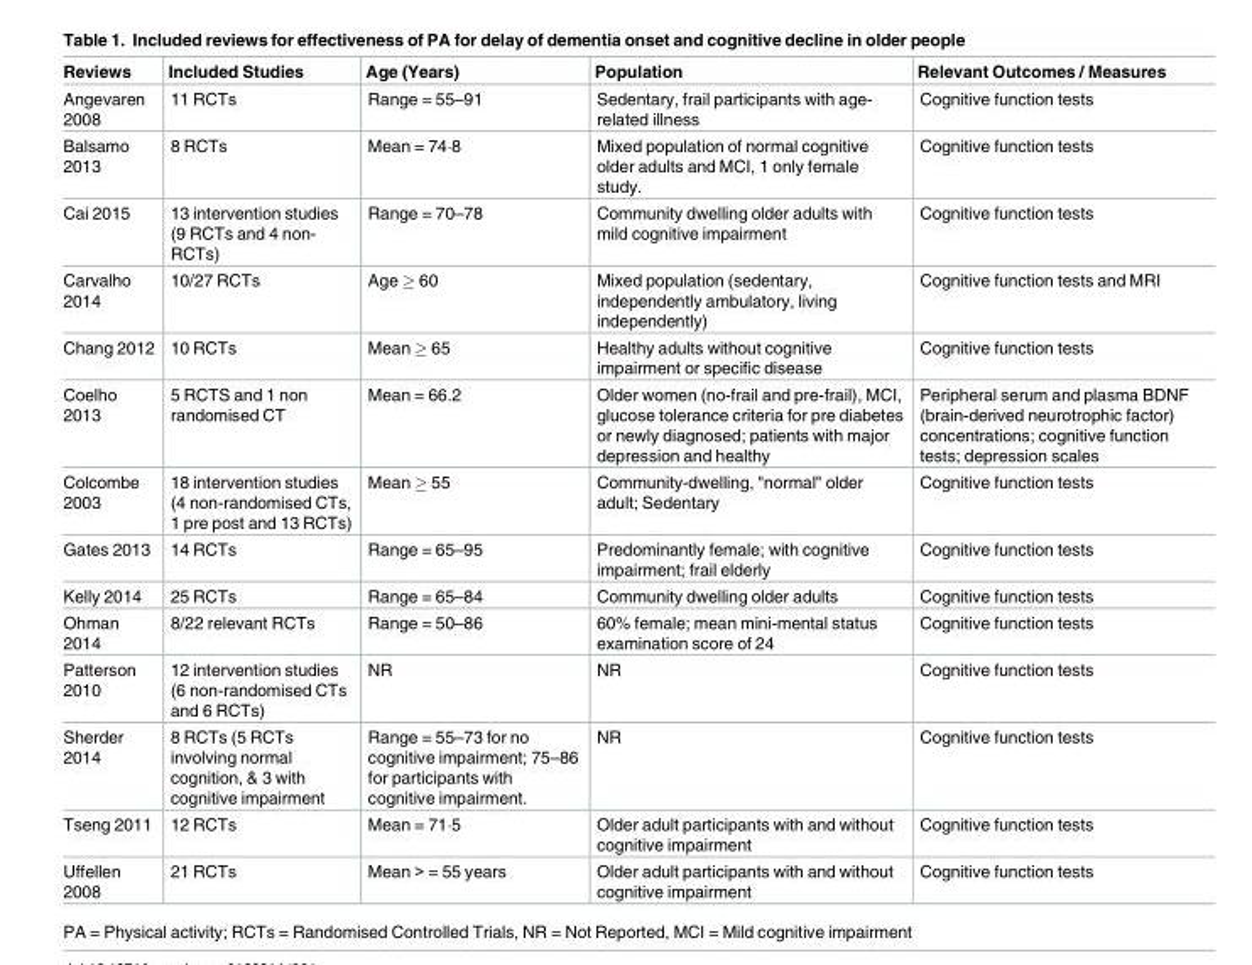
<table><thead><tr><td>Reviews</td><td>Included Studies</td><td>Age (Years)</td><td>Population</td><td>Relevant Outcomes / Measures</td></tr></thead><tbody><tr><td>Angevaren 2008</td><td>11 RCTs</td><td>Range = 55–91</td><td>Sedentary, frail participants with age- related illness</td><td>Cognitive function tests</td></tr><tr><td>Balsamo 2013</td><td>8 RCTs</td><td>Mean = 74·8</td><td>Mixed population of normal cognitive older adults and MCI, 1 only female study.</td><td>Cognitive function tests</td></tr><tr><td>Cai 2015</td><td>13 intervention studies (9 RCTs and 4 non- RCTs)</td><td>Range = 70–78</td><td>Community dwelling older adults with mild cognitive impairment</td><td>Cognitive function tests</td></tr><tr><td>Carvalho 2014</td><td>10/27 RCTs</td><td>Age ≥ 60</td><td>Mixed population (sedentary, independently ambulatory, living independently)</td><td>Cognitive function tests and MRI</td></tr><tr><td>Chang 2012</td><td>10 RCTs</td><td>Mean ≥ 65</td><td>Healthy adults without cognitive impairment or specific disease</td><td>Cognitive function tests</td></tr><tr><td>Coelho 2013</td><td>5 RCTS and 1 non randomised CT</td><td>Mean = 66.2</td><td>Older women (no-frail and pre-frail), MCI, glucose tolerance criteria for pre diabetes or newly diagnosed; patients with major depression and healthy</td><td>Peripheral serum and plasma BDNF (brain-derived neurotrophic factor) concentrations; cognitive function tests; depression scales</td></tr><tr><td>Colcombe 2003</td><td>18 intervention studies (4 non-randomised CTs, 1 pre post and 13 RCTs)</td><td>Mean ≥ 55</td><td>Community-dwelling, &quot;normal&quot; older adult; Sedentary</td><td>Cognitive function tests</td></tr><tr><td>Gates 2013</td><td>14 RCTs</td><td>Range = 65–95</td><td>Predominantly female; with cognitive impairment; frail elderly</td><td>Cognitive function tests</td></tr><tr><td>Kelly 2014</td><td>25 RCTs</td><td>Range = 65–84</td><td>Community dwelling older adults</td><td>Cognitive function tests</td></tr><tr><td>Ohman 2014</td><td>8/22 relevant RCTs</td><td>Range = 50–86</td><td>60% female; mean mini-mental status examination score of 24</td><td>Cognitive function tests</td></tr><tr><td>Patterson 2010</td><td>12 intervention studies (6 non-randomised CTs and 6 RCTs)</td><td>NR</td><td>NR</td><td>Cognitive function tests</td></tr><tr><td>Sherder 2014</td><td>8 RCTs (5 RCTs involving normal cognition, &amp; 3 with cognitive impairment</td><td>Range = 55–73 for no cognitive impairment; 75–86 for participants with cognitive impairment.</td><td>NR</td><td>Cognitive function tests</td></tr><tr><td>Tseng 2011</td><td>12 RCTs</td><td>Mean = 71·5</td><td>Older adult participants with and without cognitive impairment</td><td>Cognitive function tests</td></tr><tr><td>Uffellen 2008</td><td>21 RCTs</td><td>Mean &gt; = 55 years</td><td>Older adult participants with and without cognitive impairment</td><td>Cognitive function tests</td></tr></tbody></table>